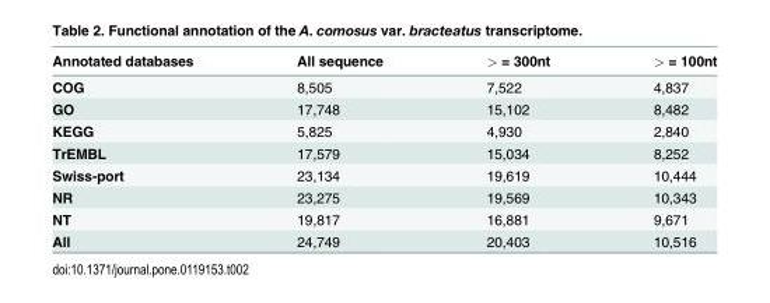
<table><thead><tr><td>Annotated databases</td><td>All sequence</td><td>&gt; = 300nt</td><td>&gt; = 100nt</td></tr></thead><tbody><tr><td>COG</td><td>8,505</td><td>7,522</td><td>4,837</td></tr><tr><td>GO</td><td>17,748</td><td>15,102</td><td>8,482</td></tr><tr><td>KEGG</td><td>5,825</td><td>4,930</td><td>2,840</td></tr><tr><td>TrEMBL</td><td>17,579</td><td>15,034</td><td>8,252</td></tr><tr><td>Swiss-port</td><td>23,134</td><td>19,619</td><td>10,444</td></tr><tr><td>NR</td><td>23,275</td><td>19,569</td><td>10,343</td></tr><tr><td>NT</td><td>19,817</td><td>16,881</td><td>9,671</td></tr><tr><td>All</td><td>24,749</td><td>20,403</td><td>10,516</td></tr></tbody></table>